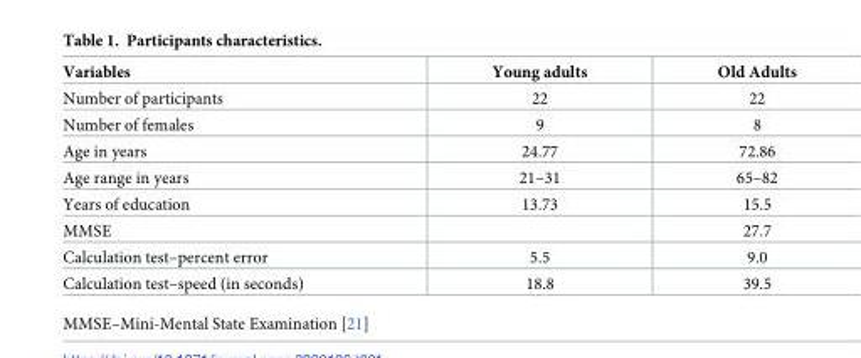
<table><thead><tr><td>Variables</td><td>Young adults</td><td>Old Adults</td></tr></thead><tbody><tr><td>Number of participants</td><td>22</td><td>22</td></tr><tr><td>Number of females</td><td>9</td><td>8</td></tr><tr><td>Age in years</td><td>24.77</td><td>72.86</td></tr><tr><td>Age range in years</td><td>21–31</td><td>65–82</td></tr><tr><td>Years of education</td><td>13.73</td><td>15.5</td></tr><tr><td>MMSE</td><td></td><td>27.7</td></tr><tr><td>Calculation test–percent error</td><td>5.5</td><td>9.0</td></tr><tr><td>Calculation test–speed (in seconds)</td><td>18.8</td><td>39.5</td></tr></tbody></table>